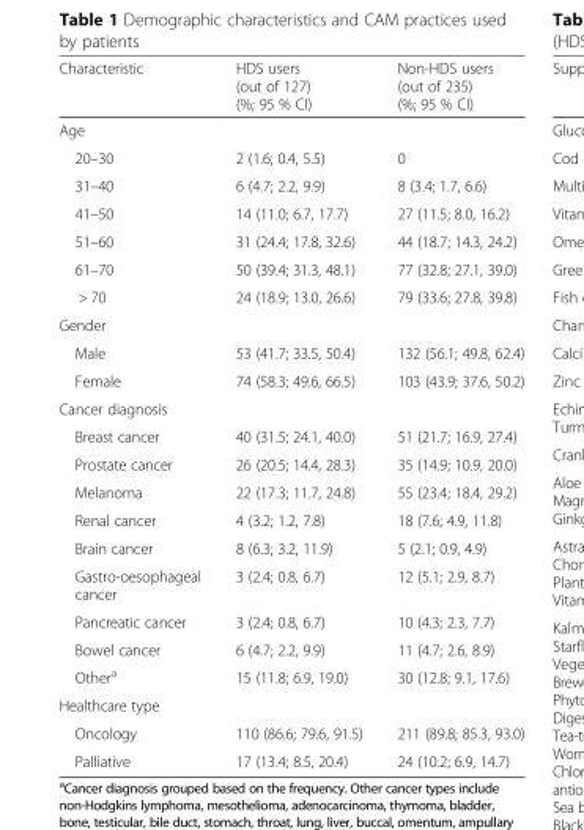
<table><thead><tr><td>Characteristic</td><td>HDS users (out of 127) (%; 95 % CI)</td><td>Non-HDS users (out of 235) (%; 95 % CI)</td></tr></thead><tbody><tr><td colspan="3">Age</td></tr><tr><td>20–30</td><td>2 (1.6; 0.4, 5.5)</td><td>0</td></tr><tr><td>31–40</td><td>6 (4.7; 2.2, 9.9)</td><td>8 (3.4; 1.7, 6.6)</td></tr><tr><td>41–50</td><td>14 (11.0; 6.7, 17.7)</td><td>27 (11.5; 8.0, 16.2)</td></tr><tr><td>51–60</td><td>31 (24.4; 17.8, 32.6)</td><td>44 (18.7; 14.3, 24.2)</td></tr><tr><td>61–70</td><td>50 (39.4; 31.3, 48.1)</td><td>77 (32.8; 27.1, 39.0)</td></tr><tr><td>&gt; 70</td><td>24 (18.9; 13.0, 26.6)</td><td>79 (33.6; 27.8, 39.8)</td></tr><tr><td colspan="3">Gender</td></tr><tr><td>Male</td><td>53 (41.7; 33.5, 50.4)</td><td>132 (56.1; 49.8, 62.4)</td></tr><tr><td>Female</td><td>74 (58.3; 49.6, 66.5)</td><td>103 (43.9; 37.6, 50.2)</td></tr><tr><td colspan="3">Cancer diagnosis</td></tr><tr><td>Breast cancer</td><td>40 (31.5; 24.1, 40.0)</td><td>51 (21.7; 16.9, 27.4)</td></tr><tr><td>Prostate cancer</td><td>26 (20.5; 14.4, 28.3)</td><td>35 (14.9; 10.9, 20.0)</td></tr><tr><td>Melanoma</td><td>22 (17.3; 11.7, 24.8)</td><td>55 (23.4; 18.4, 29.2)</td></tr><tr><td>Renal cancer</td><td>4 (3.2; 1.2, 7.8)</td><td>18 (7.6; 4.9, 11.8)</td></tr><tr><td>Brain cancer</td><td>8 (6.3; 3.2, 11.9)</td><td>5 (2.1; 0.9, 4.9)</td></tr><tr><td>Gastro-oesophageal cancer</td><td>3 (2.4; 0.8, 6.7)</td><td>12 (5.1; 2.9, 8.7)</td></tr><tr><td>Pancreatic cancer</td><td>3 (2.4; 0.8, 6.7)</td><td>10 (4.3; 2.3, 7.7)</td></tr><tr><td>Bowel cancer</td><td>6 (4.7; 2.2, 9.9)</td><td>11 (4.7; 2.6, 8.9)</td></tr><tr><td>Other<sup>a</sup></td><td>15 (11.8; 6.9, 19.0)</td><td>30 (12.8; 9.1, 17.6)</td></tr><tr><td colspan="3">Healthcare type</td></tr><tr><td>Oncology</td><td>110 (86.6; 79.6, 91.5)</td><td>211 (89.8; 85.3, 93.0)</td></tr><tr><td>Palliative</td><td>17 (13.4; 8.5, 20.4)</td><td>24 (10.2; 6.9, 14.7)</td></tr></tbody></table>